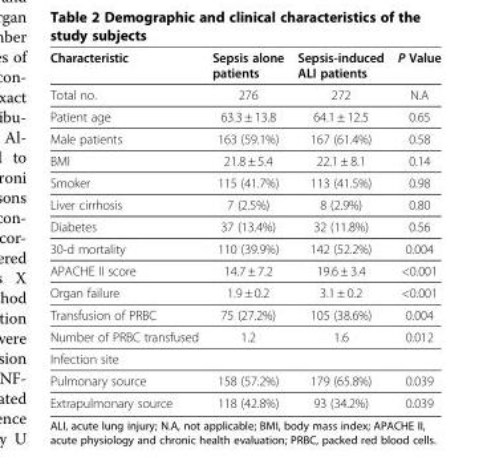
<table><thead><tr><td>Characteristic</td><td>Sepsis alone patients</td><td>Sepsis-induced ALI patients</td><td>P Value</td></tr></thead><tbody><tr><td>Total no.</td><td>276</td><td>272</td><td>N.A</td></tr><tr><td>Patient age</td><td>63.3 ± 13.8</td><td>64.1 ± 12.5</td><td>0.65</td></tr><tr><td>Male patients</td><td>163 (59.1%)</td><td>167 (61.4%)</td><td>0.58</td></tr><tr><td>BMI</td><td>21.8 ± 5.4</td><td>22.1 ± 8.1</td><td>0.14</td></tr><tr><td>Smoker</td><td>115 (41.7%)</td><td>113 (41.5%)</td><td>0.98</td></tr><tr><td>Liver cirrhosis</td><td>7 (2.5%)</td><td>8 (2.9%)</td><td>0.80</td></tr><tr><td>Diabetes</td><td>37 (13.4%)</td><td>32 (11.8%)</td><td>0.56</td></tr><tr><td>30-d mortality</td><td>110 (39.9%)</td><td>142 (52.2%)</td><td>0.004</td></tr><tr><td>APACHE II score</td><td>14.7 ± 7.2</td><td>19.6 ± 3.4</td><td>&lt;0.001</td></tr><tr><td>Organ failure</td><td>1.9 ± 0.2</td><td>3.1 ± 0.2</td><td>&lt;0.001</td></tr><tr><td>Transfusion of PRBC</td><td>75 (27.2%)</td><td>105 (38.6%)</td><td>0.004</td></tr><tr><td>Number of PRBC transfused</td><td>1.2</td><td>1.6</td><td>0.012</td></tr><tr><td colspan="4">Infection site</td></tr><tr><td>Pulmonary source</td><td>158 (57.2%)</td><td>179 (65.8%)</td><td>0.039</td></tr><tr><td>Extrapulmonary source</td><td>118 (42.8%)</td><td>93 (34.2%)</td><td>0.039</td></tr></tbody></table>